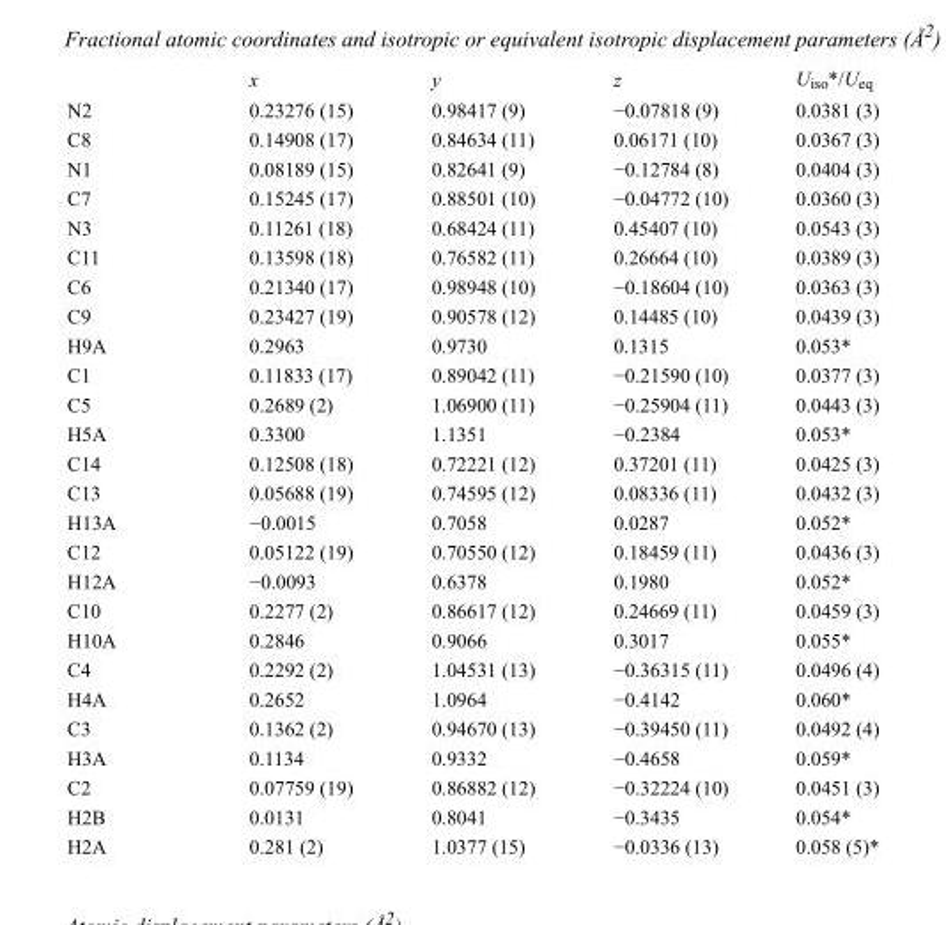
<table><thead><tr><td></td><td>x</td><td>y</td><td>z</td><td>U<sub>iso</sub>*/U<sub>eq</sub></td></tr></thead><tbody><tr><td>N2</td><td>0.23276 (15)</td><td>0.98417 (9)</td><td>−0.07818 (9)</td><td>0.0381 (3)</td></tr><tr><td>C8</td><td>0.14908 (17)</td><td>0.84634 (11)</td><td>0.06171 (10)</td><td>0.0367 (3)</td></tr><tr><td>N1</td><td>0.08189 (15)</td><td>0.82641 (9)</td><td>−0.12784 (8)</td><td>0.0404 (3)</td></tr><tr><td>C7</td><td>0.15245 (17)</td><td>0.88501 (10)</td><td>−0.04772 (10)</td><td>0.0360 (3)</td></tr><tr><td>N3</td><td>0.11261 (18)</td><td>0.68424 (11)</td><td>0.45407 (10)</td><td>0.0543 (3)</td></tr><tr><td>C11</td><td>0.13598 (18)</td><td>0.76582 (11)</td><td>0.26664 (10)</td><td>0.0389 (3)</td></tr><tr><td>C6</td><td>0.21340 (17)</td><td>0.98948 (10)</td><td>−0.18604 (10)</td><td>0.0363 (3)</td></tr><tr><td>C9</td><td>0.23427 (19)</td><td>0.90578 (12)</td><td>0.14485 (10)</td><td>0.0439 (3)</td></tr><tr><td>H9A</td><td>0.2963</td><td>0.9730</td><td>0.1315</td><td>0.053*</td></tr><tr><td>C1</td><td>0.11833 (17)</td><td>0.89042 (11)</td><td>−0.21590 (10)</td><td>0.0377 (3)</td></tr><tr><td>C5</td><td>0.2689 (2)</td><td>1.06900 (11)</td><td>−0.25904 (11)</td><td>0.0443 (3)</td></tr><tr><td>H5A</td><td>0.3300</td><td>1.1351</td><td>−0.2384</td><td>0.053*</td></tr><tr><td>C14</td><td>0.12508 (18)</td><td>0.72221 (12)</td><td>0.37201 (11)</td><td>0.0425 (3)</td></tr><tr><td>C13</td><td>0.05688 (19)</td><td>0.74595 (12)</td><td>0.08336 (11)</td><td>0.0432 (3)</td></tr><tr><td>H13A</td><td>−0.0015</td><td>0.7058</td><td>0.0287</td><td>0.052*</td></tr><tr><td>C12</td><td>0.05122 (19)</td><td>0.70550 (12)</td><td>0.18459 (11)</td><td>0.0436 (3)</td></tr><tr><td>H12A</td><td>−0.0093</td><td>0.6378</td><td>0.1980</td><td>0.052*</td></tr><tr><td>C10</td><td>0.2277 (2)</td><td>0.86617 (12)</td><td>0.24669 (11)</td><td>0.0459 (3)</td></tr><tr><td>H10A</td><td>0.2846</td><td>0.9066</td><td>0.3017</td><td>0.055*</td></tr><tr><td>C4</td><td>0.2292 (2)</td><td>1.04531 (13)</td><td>−0.36315 (11)</td><td>0.0496 (4)</td></tr><tr><td>H4A</td><td>0.2652</td><td>1.0964</td><td>−0.4142</td><td>0.060*</td></tr><tr><td>C3</td><td>0.1362 (2)</td><td>0.94670 (13)</td><td>−0.39450 (11)</td><td>0.0492 (4)</td></tr><tr><td>H3A</td><td>0.1134</td><td>0.9332</td><td>−0.4658</td><td>0.059*</td></tr><tr><td>C2</td><td>0.07759 (19)</td><td>0.86882 (12)</td><td>−0.32224 (10)</td><td>0.0451 (3)</td></tr><tr><td>H2B</td><td>0.0131</td><td>0.8041</td><td>−0.3435</td><td>0.054*</td></tr><tr><td>H2A</td><td>0.281 (2)</td><td>1.0377 (15)</td><td>−0.0336 (13)</td><td>0.058 (5)*</td></tr></tbody></table>